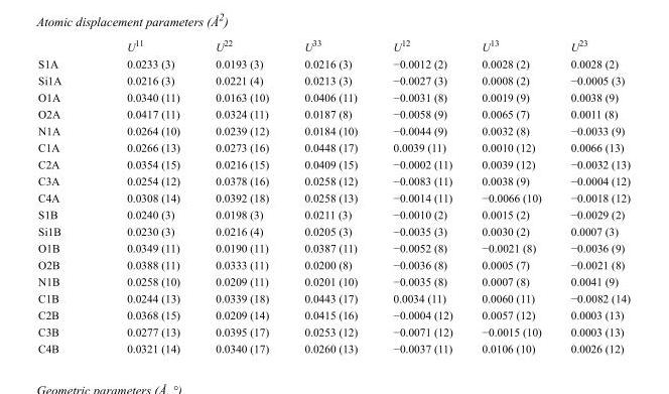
<table><thead><tr><td></td><td>U<sup>11</sup></td><td>U<sup>22</sup></td><td>U<sup>33</sup></td><td>U<sup>12</sup></td><td>U<sup>13</sup></td><td>U<sup>23</sup></td></tr></thead><tbody><tr><td>S1A</td><td>0.0233 (3)</td><td>0.0193 (3)</td><td>0.0216 (3)</td><td>−0.0012 (2)</td><td>0.0028 (2)</td><td>0.0028 (2)</td></tr><tr><td>Si1A</td><td>0.0216 (3)</td><td>0.0221 (4)</td><td>0.0213 (3)</td><td>−0.0027 (3)</td><td>0.0008 (2)</td><td>−0.0005 (3)</td></tr><tr><td>O1A</td><td>0.0340 (11)</td><td>0.0163 (10)</td><td>0.0406 (11)</td><td>−0.0031 (8)</td><td>0.0019 (9)</td><td>0.0038 (9)</td></tr><tr><td>O2A</td><td>0.0417 (11)</td><td>0.0324 (11)</td><td>0.0187 (8)</td><td>−0.0058 (9)</td><td>0.0065 (7)</td><td>0.0011 (8)</td></tr><tr><td>N1A</td><td>0.0264 (10)</td><td>0.0239 (12)</td><td>0.0184 (10)</td><td>−0.0044 (9)</td><td>0.0032 (8)</td><td>−0.0033 (9)</td></tr><tr><td>C1A</td><td>0.0266 (13)</td><td>0.0273 (16)</td><td>0.0448 (17)</td><td>0.0039 (11)</td><td>0.0010 (12)</td><td>0.0066 (13)</td></tr><tr><td>C2A</td><td>0.0354 (15)</td><td>0.0216 (15)</td><td>0.0409 (15)</td><td>−0.0002 (11)</td><td>0.0039 (12)</td><td>−0.0032 (13)</td></tr><tr><td>C3A</td><td>0.0254 (12)</td><td>0.0378 (16)</td><td>0.0258 (12)</td><td>−0.0083 (11)</td><td>0.0038 (9)</td><td>−0.0004 (12)</td></tr><tr><td>C4A</td><td>0.0308 (14)</td><td>0.0392 (18)</td><td>0.0258 (13)</td><td>−0.0014 (11)</td><td>−0.0066 (10)</td><td>−0.0018 (12)</td></tr><tr><td>S1B</td><td>0.0240 (3)</td><td>0.0198 (3)</td><td>0.0211 (3)</td><td>−0.0010 (2)</td><td>0.0015 (2)</td><td>−0.0029 (2)</td></tr><tr><td>Si1B</td><td>0.0230 (3)</td><td>0.0216 (4)</td><td>0.0205 (3)</td><td>−0.0035 (3)</td><td>0.0030 (2)</td><td>0.0007 (3)</td></tr><tr><td>O1B</td><td>0.0349 (11)</td><td>0.0190 (11)</td><td>0.0387 (11)</td><td>−0.0052 (8)</td><td>−0.0021 (8)</td><td>−0.0036 (9)</td></tr><tr><td>O2B</td><td>0.0388 (11)</td><td>0.0333 (11)</td><td>0.0200 (8)</td><td>−0.0036 (8)</td><td>0.0005 (7)</td><td>−0.0021 (8)</td></tr><tr><td>N1B</td><td>0.0258 (10)</td><td>0.0209 (11)</td><td>0.0201 (10)</td><td>−0.0035 (8)</td><td>0.0007 (8)</td><td>0.0041 (9)</td></tr><tr><td>C1B</td><td>0.0244 (13)</td><td>0.0339 (18)</td><td>0.0443 (17)</td><td>0.0034 (11)</td><td>0.0060 (11)</td><td>−0.0082 (14)</td></tr><tr><td>C2B</td><td>0.0368 (15)</td><td>0.0209 (14)</td><td>0.0415 (16)</td><td>−0.0004 (12)</td><td>0.0057 (12)</td><td>0.0003 (13)</td></tr><tr><td>C3B</td><td>0.0277 (13)</td><td>0.0395 (17)</td><td>0.0253 (12)</td><td>−0.0071 (12)</td><td>−0.0015 (10)</td><td>0.0003 (13)</td></tr><tr><td>C4B</td><td>0.0321 (14)</td><td>0.0340 (17)</td><td>0.0260 (13)</td><td>−0.0037 (11)</td><td>0.0106 (10)</td><td>0.0026 (12)</td></tr></tbody></table>